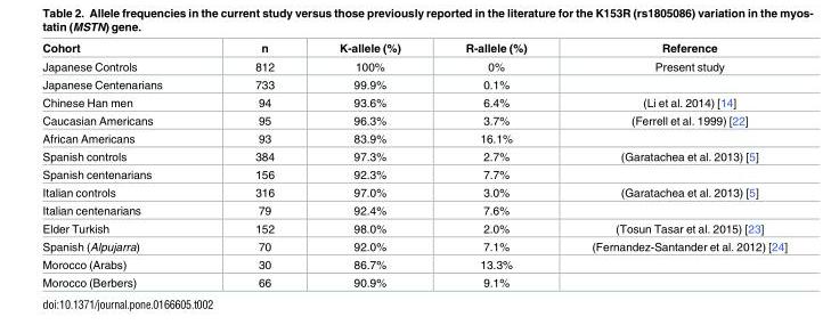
<table><thead><tr><td>Cohort</td><td>n</td><td>K-allele (%)</td><td>R-allele (%)</td><td>Reference</td></tr></thead><tbody><tr><td>Japanese Controls</td><td>812</td><td>100%</td><td>0%</td><td>Present study</td></tr><tr><td>Japanese Centenarians</td><td>733</td><td>99.9%</td><td>0.1%</td><td></td></tr><tr><td>Chinese Han men</td><td>94</td><td>93.6%</td><td>6.4%</td><td>(Li et al. 2014) [14]</td></tr><tr><td>Caucasian Americans</td><td>95</td><td>96.3%</td><td>3.7%</td><td>(Ferrell et al. 1999) [22]</td></tr><tr><td>African Americans</td><td>93</td><td>83.9%</td><td>16.1%</td><td></td></tr><tr><td>Spanish controls</td><td>384</td><td>97.3%</td><td>2.7%</td><td>(Garatachea et al. 2013) [5]</td></tr><tr><td>Spanish centenarians</td><td>156</td><td>92.3%</td><td>7.7%</td><td></td></tr><tr><td>Italian controls</td><td>316</td><td>97.0%</td><td>3.0%</td><td>(Garatachea et al. 2013) [5]</td></tr><tr><td>Italian centenarians</td><td>79</td><td>92.4%</td><td>7.6%</td><td></td></tr><tr><td>Elder Turkish</td><td>152</td><td>98.0%</td><td>2.0%</td><td>(Tosun Tasar et al. 2015) [23]</td></tr><tr><td>Spanish (Alpujarra)</td><td>70</td><td>92.0%</td><td>7.1%</td><td>(Fernandez-Santander et al. 2012) [24]</td></tr><tr><td>Morocco (Arabs)</td><td>30</td><td>86.7%</td><td>13.3%</td><td></td></tr><tr><td>Morocco (Berbers)</td><td>66</td><td>90.9%</td><td>9.1%</td><td></td></tr></tbody></table>